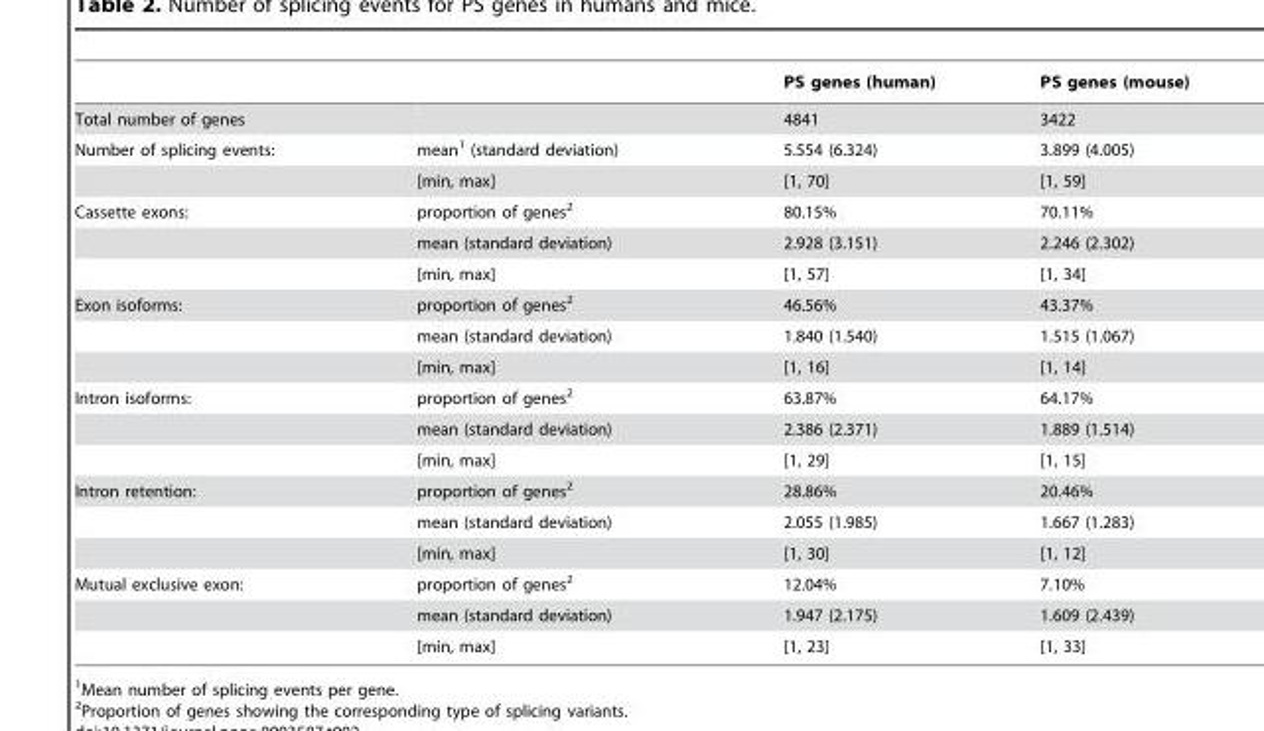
<table><thead><tr><td></td><td></td><td>PS genes (human)</td><td>PS genes (mouse)</td></tr></thead><tbody><tr><td>Total number of genes</td><td></td><td>4841</td><td>3422</td></tr><tr><td rowspan="2">Number of splicing events:</td><td>mean<sup>1</sup> (standard deviation)</td><td>5.554 (6.324)</td><td>3.899 (4.005)</td></tr><tr><td>[min, max]</td><td>[1, 70]</td><td>[1, 59]</td></tr><tr><td rowspan="3">Cassette exons:</td><td>proportion of genes<sup>2</sup></td><td>80.15%</td><td>70.11%</td></tr><tr><td>mean (standard deviation)</td><td>2.928 (3.151)</td><td>2.246 (2.302)</td></tr><tr><td>[min, max]</td><td>[1, 57]</td><td>[1, 34]</td></tr><tr><td rowspan="3">Exon isoforms:</td><td>proportion of genes<sup>2</sup></td><td>46.56%</td><td>43.37%</td></tr><tr><td>mean (standard deviation)</td><td>1.840 (1.540)</td><td>1.515 (1.067)</td></tr><tr><td>[min, max]</td><td>[1, 16]</td><td>[1, 14]</td></tr><tr><td rowspan="3">Intron isoforms:</td><td>proportion of genes<sup>2</sup></td><td>63.87%</td><td>64.17%</td></tr><tr><td>mean (standard deviation)</td><td>2.386 (2.371)</td><td>1.889 (1.514)</td></tr><tr><td>[min, max]</td><td>[1, 29]</td><td>[1, 15]</td></tr><tr><td rowspan="3">Intron retention:</td><td>proportion of genes<sup>2</sup></td><td>28.86%</td><td>20.46%</td></tr><tr><td>mean (standard deviation)</td><td>2.055 (1.985)</td><td>1.667 (1.283)</td></tr><tr><td>[min, max]</td><td>[1, 30]</td><td>[1, 12]</td></tr><tr><td rowspan="3">Mutual exclusive exon:</td><td>proportion of genes<sup>2</sup></td><td>12.04%</td><td>7.10%</td></tr><tr><td>mean (standard deviation)</td><td>1.947 (2.175)</td><td>1.609 (2.439)</td></tr><tr><td>[min, max]</td><td>[1, 23]</td><td>[1, 33]</td></tr></tbody></table>